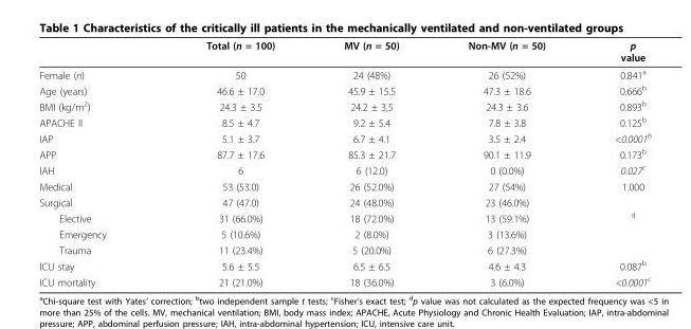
<table><thead><tr><td></td><td>Total (n = 100)</td><td>MV (n = 50)</td><td>Non-MV (n = 50)</td><td>p value</td></tr></thead><tbody><tr><td>Female (n)</td><td>50</td><td>24 (48%)</td><td>26 (52%)</td><td>0.841<sup>a</sup></td></tr><tr><td>Age (years)</td><td>46.6 ± 17.0</td><td>45.9 ± 15.5</td><td>47.3 ± 18.6</td><td>0.666<sup>b</sup></td></tr><tr><td>BMI (kg/m<sup>2</sup>)</td><td>24.3 ± 3.5</td><td>24.2 ± 3,5</td><td>24.3 ± 3.6</td><td>0.893<sup>b</sup></td></tr><tr><td>APACHE II</td><td>8.5 ± 4.7</td><td>9.2 ± 5.4</td><td>7.8 ± 3.8</td><td>0.125<sup>b</sup></td></tr><tr><td>IAP</td><td>5.1 ± 3.7</td><td>6.7 ± 4.1</td><td>3.5 ± 2.4</td><td>&lt;0.0001<sup>b</sup></td></tr><tr><td>APP</td><td>87.7 ± 17.6</td><td>85.3 ± 21.7</td><td>90.1 ± 11.9</td><td>0.173<sup>b</sup></td></tr><tr><td>IAH</td><td>6</td><td>6 (12.0)</td><td>0 (0.0%)</td><td>0.027<sup>c</sup></td></tr><tr><td>Medical</td><td>53 (53.0)</td><td>26 (52.0%)</td><td>27 (54%)</td><td>1.000</td></tr><tr><td>Surgical</td><td>47 (47.0)</td><td>24 (48.0%)</td><td>23 (46.0%)</td><td></td></tr><tr><td>Elective</td><td>31 (66.0%)</td><td>18 (72.0%)</td><td>13 (59.1%)</td><td><sup>d</sup></td></tr><tr><td>Emergency</td><td>5 (10.6%)</td><td>2 (8.0%)</td><td>3 (13.6%)</td><td></td></tr><tr><td>Trauma</td><td>11 (23.4%)</td><td>5 (20.0%)</td><td>6 (27.3%)</td><td></td></tr><tr><td>ICU stay</td><td>5.6 ± 5.5</td><td>6.5 ± 6.5</td><td>4.6 ± 4.3</td><td>0.087<sup>b</sup></td></tr><tr><td>ICU mortality</td><td>21 (21.0%)</td><td>18 (36.0%)</td><td>3 (6.0%)</td><td>&lt;0.0001<sup>c</sup></td></tr></tbody></table>